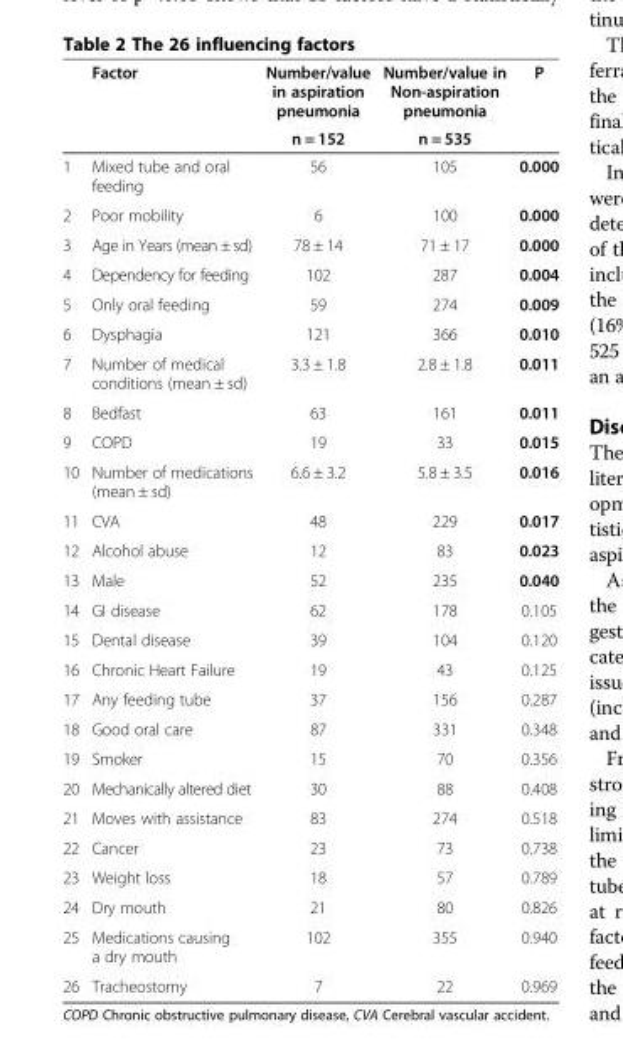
<table><thead><tr><td rowspan="2"></td><td rowspan="2">Factor</td><td rowspan="2">Number/value in aspiration pneumonia n = 152</td><td rowspan="2">Number/value in Non-aspiration pneumonia n = 535</td><td rowspan="2">P</td></tr><tr></tr></thead><tbody><tr><td>1</td><td>Mixed tube and oral feeding</td><td>56</td><td>105</td><td>0.000</td></tr><tr><td>2</td><td>Poor mobility</td><td>6</td><td>100</td><td>0.000</td></tr><tr><td>3</td><td>Age in Years (mean ± sd)</td><td>78 ± 14</td><td>71 ± 17</td><td>0.000</td></tr><tr><td>4</td><td>Dependency for feeding</td><td>102</td><td>287</td><td>0.004</td></tr><tr><td>5</td><td>Only oral feeding</td><td>59</td><td>274</td><td>0.009</td></tr><tr><td>6</td><td>Dysphagia</td><td>121</td><td>366</td><td>0.010</td></tr><tr><td>7</td><td>Number of medical conditions (mean ± sd)</td><td>3.3 ± 1.8</td><td>2.8 ± 1.8</td><td>0.011</td></tr><tr><td>8</td><td>Bedfast</td><td>63</td><td>161</td><td>0.011</td></tr><tr><td>9</td><td>COPD</td><td>19</td><td>33</td><td>0.015</td></tr><tr><td>10</td><td>Number of medications (mean ± sd)</td><td>6.6 ± 3.2</td><td>5.8 ± 3.5</td><td>0.016</td></tr><tr><td>11</td><td>CVA</td><td>48</td><td>229</td><td>0.017</td></tr><tr><td>12</td><td>Alcohol abuse</td><td>12</td><td>83</td><td>0.023</td></tr><tr><td>13</td><td>Male</td><td>52</td><td>235</td><td>0.040</td></tr><tr><td>14</td><td>GI disease</td><td>62</td><td>178</td><td>0.105</td></tr><tr><td>15</td><td>Dental disease</td><td>39</td><td>104</td><td>0.120</td></tr><tr><td>16</td><td>Chronic Heart Failure</td><td>19</td><td>43</td><td>0.125</td></tr><tr><td>17</td><td>Any feeding tube</td><td>37</td><td>156</td><td>0.287</td></tr><tr><td>18</td><td>Good oral care</td><td>87</td><td>331</td><td>0.348</td></tr><tr><td>19</td><td>Smoker</td><td>15</td><td>70</td><td>0.356</td></tr><tr><td>20</td><td>Mechanically altered diet</td><td>30</td><td>88</td><td>0.408</td></tr><tr><td>21</td><td>Moves with assistance</td><td>83</td><td>274</td><td>0.518</td></tr><tr><td>22</td><td>Cancer</td><td>23</td><td>73</td><td>0.738</td></tr><tr><td>23</td><td>Weight loss</td><td>18</td><td>57</td><td>0.789</td></tr><tr><td>24</td><td>Dry mouth</td><td>21</td><td>80</td><td>0.826</td></tr><tr><td>25</td><td>Medications causing a dry mouth</td><td>102</td><td>355</td><td>0.940</td></tr><tr><td>26</td><td>Tracheostomy</td><td>7</td><td>22</td><td>0.969</td></tr></tbody></table>